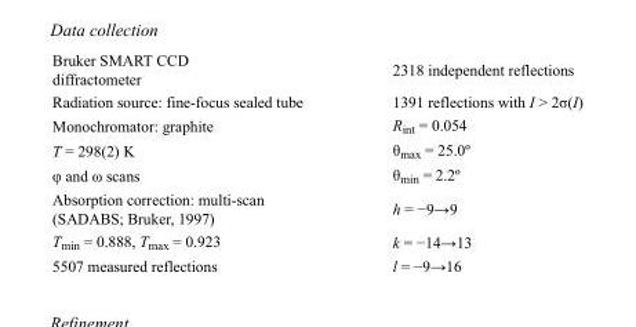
<table><tbody><tr><td>Bruker SMART CCD diffractometer</td><td>2318 independent reflections</td></tr><tr><td>Radiation source: fine-focus sealed tube</td><td>1391 reflections with I &gt; 2σ(I)</td></tr><tr><td>Monochromator: graphite</td><td>R<sub>int</sub> = 0.054</td></tr><tr><td>T = 298(2) K</td><td>θ<sub>max</sub> = 25.0º</td></tr><tr><td>φ and ω scans</td><td>θ<sub>min</sub> = 2.2º</td></tr><tr><td>Absorption correction: multi-scan (SADABS; Bruker, 1997)</td><td>h = −9→9</td></tr><tr><td>T<sub>min</sub> = 0.888, T<sub>max</sub> = 0.923</td><td>k = −14→13</td></tr><tr><td>5507 measured reflections</td><td>l = −9→16</td></tr></tbody></table>